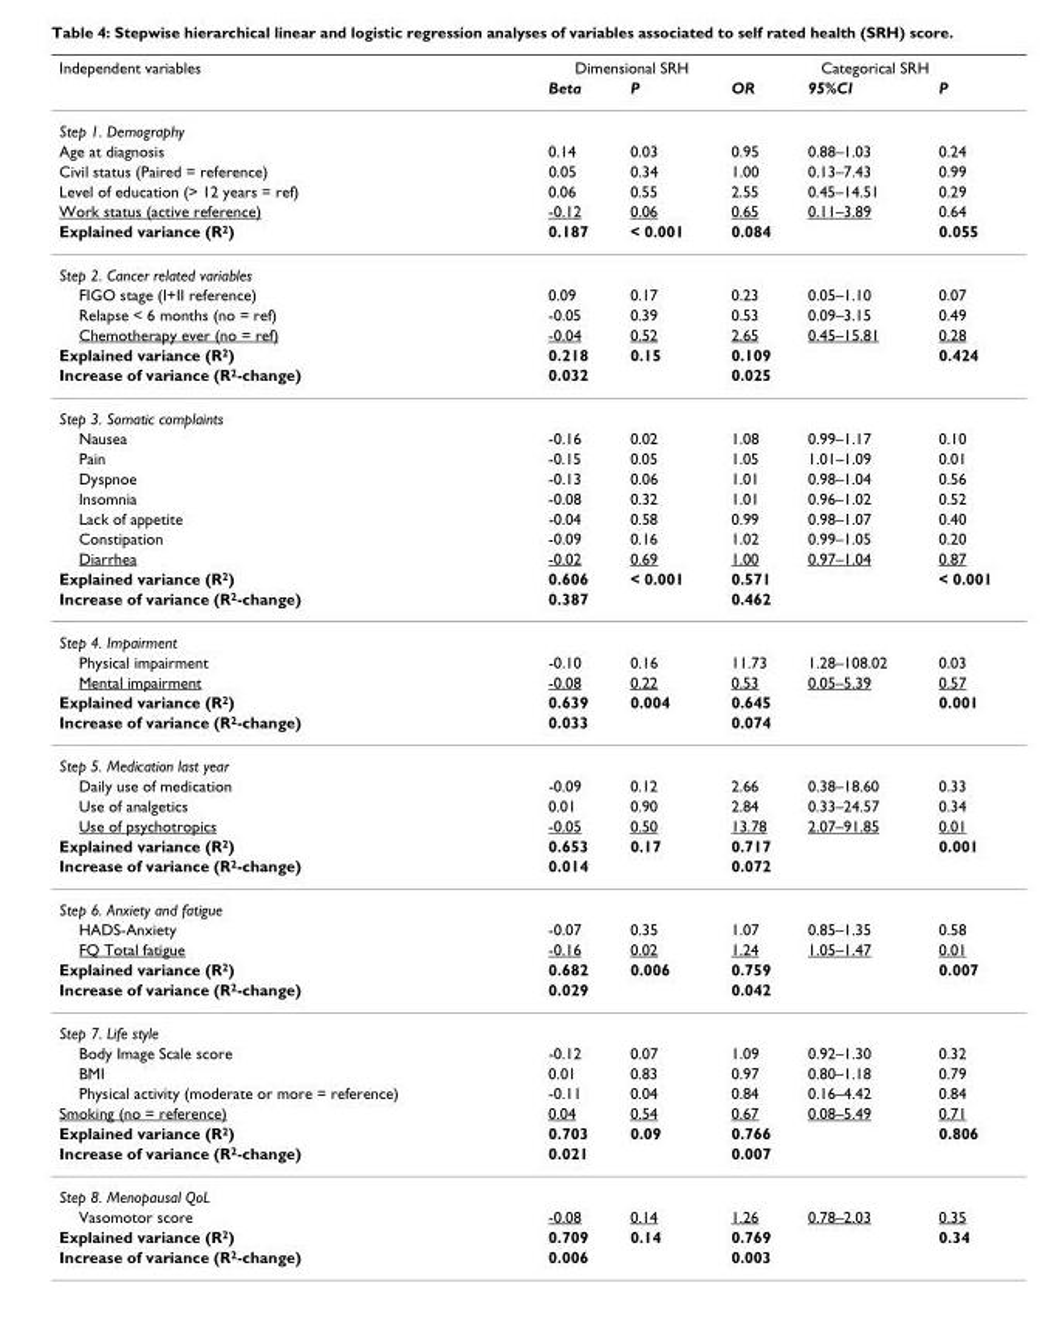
<table><thead><tr><td rowspan="2">Independent variables</td><td colspan="2">Dimensional SRH</td><td colspan="3">Categorical SRH</td></tr><tr><td>Beta</td><td>P</td><td>OR</td><td>95%CI</td><td>P</td></tr></thead><tbody><tr><td colspan="6">Step 1. Demography</td></tr><tr><td>Age at diagnosis</td><td>0.14</td><td>0.03</td><td>0.95</td><td>0.88–1.03</td><td>0.24</td></tr><tr><td>Civil status (Paired = reference)</td><td>0.05</td><td>0.34</td><td>1.00</td><td>0.13–7.43</td><td>0.99</td></tr><tr><td>Level of education (&gt; 12 years = ref)</td><td>0.06</td><td>0.55</td><td>2.55</td><td>0.45–14.51</td><td>0.29</td></tr><tr><td>Work status (active reference)</td><td>-0.12</td><td>0.06</td><td>0.65</td><td>0.11–3.89</td><td>0.64</td></tr><tr><td>Explained variance (R<sup>2</sup>)</td><td>0.187</td><td>&lt; 0.001</td><td>0.084</td><td></td><td>0.055</td></tr><tr><td colspan="6">Step 2. Cancer related variables</td></tr><tr><td>FIGO stage (I+II reference)</td><td>0.09</td><td>0.17</td><td>0.23</td><td>0.05–1.10</td><td>0.07</td></tr><tr><td>Relapse &lt; 6 months (no = ref)</td><td>-0.05</td><td>0.39</td><td>0.53</td><td>0.09–3.15</td><td>0.49</td></tr><tr><td>Chemotherapy ever (no = ref)</td><td>-0.04</td><td>0.52</td><td>2.65</td><td>0.45–15.81</td><td>0.28</td></tr><tr><td>Explained variance (R<sup>2</sup>)</td><td>0.218</td><td>0.15</td><td>0.109</td><td></td><td>0.424</td></tr><tr><td>Increase of variance (R<sup>2</sup>-change)</td><td>0.032</td><td></td><td>0.025</td><td></td><td></td></tr><tr><td colspan="6">Step 3. Somatic complaints</td></tr><tr><td>Nausea</td><td>-0.16</td><td>0.02</td><td>1.08</td><td>0.99–1.17</td><td>0.10</td></tr><tr><td>Pain</td><td>-0.15</td><td>0.05</td><td>1.05</td><td>1.01–1.09</td><td>0.01</td></tr><tr><td>Dyspnoe</td><td>-0.13</td><td>0.06</td><td>1.01</td><td>0.98–1.04</td><td>0.56</td></tr><tr><td>Insomnia</td><td>-0.08</td><td>0.32</td><td>1.01</td><td>0.96–1.02</td><td>0.52</td></tr><tr><td>Lack of appetite</td><td>-0.04</td><td>0.58</td><td>0.99</td><td>0.98–1.07</td><td>0.40</td></tr><tr><td>Constipation</td><td>-0.09</td><td>0.16</td><td>1.02</td><td>0.99–1.05</td><td>0.20</td></tr><tr><td>Diarrhea</td><td>-0.02</td><td>0.69</td><td>1.00</td><td>0.97–1.04</td><td>0.87</td></tr><tr><td>Explained variance (R<sup>2</sup>)</td><td>0.606</td><td>&lt; 0.001</td><td>0.571</td><td></td><td>&lt; 0.001</td></tr><tr><td>Increase of variance (R<sup>2</sup>-change)</td><td>0.387</td><td></td><td>0.462</td><td></td><td></td></tr><tr><td colspan="6">Step 4. Impairment</td></tr><tr><td>Physical impairment</td><td>-0.10</td><td>0.16</td><td>11.73</td><td>1.28–108.02</td><td>0.03</td></tr><tr><td>Mental impairment</td><td>-0.08</td><td>0.22</td><td>0.53</td><td>0.05–5.39</td><td>0.57</td></tr><tr><td>Explained variance (R<sup>2</sup>)</td><td>0.639</td><td>0.004</td><td>0.645</td><td></td><td>0.001</td></tr><tr><td>Increase of variance (R<sup>2</sup>-change)</td><td>0.033</td><td></td><td>0.074</td><td></td><td></td></tr><tr><td colspan="6">Step 5. Medication last year</td></tr><tr><td>Daily use of medication</td><td>-0.09</td><td>0.12</td><td>2.66</td><td>0.38–18.60</td><td>0.33</td></tr><tr><td>Use of analgetics</td><td>0.01</td><td>0.90</td><td>2.84</td><td>0.33–24.57</td><td>0.34</td></tr><tr><td>Use of psychotropics</td><td>-0.05</td><td>0.50</td><td>13.78</td><td>2.07–91.85</td><td>0.01</td></tr><tr><td>Explained variance (R<sup>2</sup>)</td><td>0.653</td><td>0.17</td><td>0.717</td><td></td><td>0.001</td></tr><tr><td>Increase of variance (R<sup>2</sup>-change)</td><td>0.014</td><td></td><td>0.072</td><td></td><td></td></tr><tr><td colspan="6">Step 6. Anxiety and fatigue</td></tr><tr><td>HADS-Anxiety</td><td>-0.07</td><td>0.35</td><td>1.07</td><td>0.85–1.35</td><td>0.58</td></tr><tr><td>FQ Total fatigue</td><td>-0.16</td><td>0.02</td><td>1.24</td><td>1.05–1.47</td><td>0.01</td></tr><tr><td>Explained variance (R<sup>2</sup>)</td><td>0.682</td><td>0.006</td><td>0.759</td><td></td><td>0.007</td></tr><tr><td>Increase of variance (R<sup>2</sup>-change)</td><td>0.029</td><td></td><td>0.042</td><td></td><td></td></tr><tr><td colspan="6">Step 7. Life style</td></tr><tr><td>Body Image Scale score</td><td>-0.12</td><td>0.07</td><td>1.09</td><td>0.92–1.30</td><td>0.32</td></tr><tr><td>BMI</td><td>0.01</td><td>0.83</td><td>0.97</td><td>0.80–1.18</td><td>0.79</td></tr><tr><td>Physical activity (moderate or more = reference)</td><td>-0.11</td><td>0.04</td><td>0.84</td><td>0.16–4.42</td><td>0.84</td></tr><tr><td>Smoking (no = reference)</td><td>0.04</td><td>0.54</td><td>0.67</td><td>0.08–5.49</td><td>0.71</td></tr><tr><td>Explained variance (R<sup>2</sup>)</td><td>0.703</td><td>0.09</td><td>0.766</td><td></td><td>0.806</td></tr><tr><td>Increase of variance (R<sup>2</sup>-change)</td><td>0.021</td><td></td><td>0.007</td><td></td><td></td></tr><tr><td colspan="6">Step 8. Menopausal QoL</td></tr><tr><td>Vasomotor score</td><td>-0.08</td><td>0.14</td><td>1.26</td><td>0.78–2.03</td><td>0.35</td></tr><tr><td>Explained variance (R<sup>2</sup>)</td><td>0.709</td><td>0.14</td><td>0.769</td><td></td><td>0.34</td></tr><tr><td>Increase of variance (R<sup>2</sup>-change)</td><td>0.006</td><td></td><td>0.003</td><td></td><td></td></tr></tbody></table>